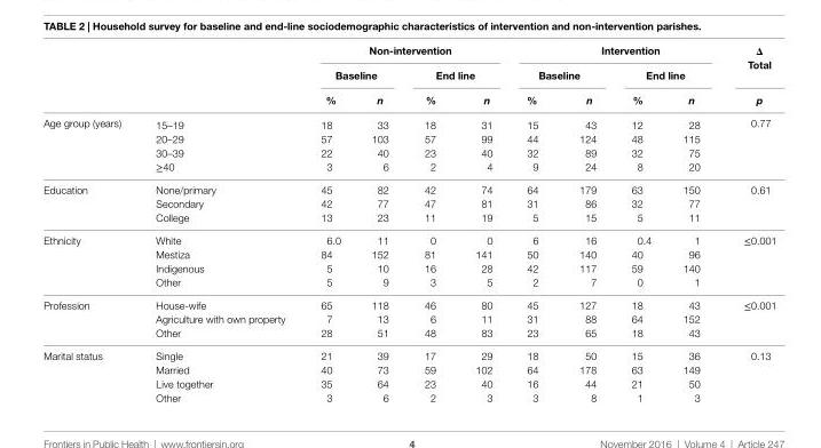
<table><thead><tr><td rowspan="3"></td><td rowspan="3"></td><td colspan="4">non-intervention</td><td colspan="4">intervention</td><td rowspan="3">Δ Total p</td></tr><tr><td colspan="2">Baseline</td><td colspan="2">end line</td><td colspan="2">Baseline</td><td colspan="2">end line</td></tr><tr><td>%</td><td>n</td><td>%</td><td>n</td><td>%</td><td>n</td><td>%</td><td>n</td></tr></thead><tbody><tr><td rowspan="4">Age group (years)</td><td>15–19</td><td>18</td><td>33</td><td>18</td><td>31</td><td>15</td><td>43</td><td>12</td><td>28</td><td rowspan="4">0.77</td></tr><tr><td>20–29</td><td>57</td><td>103</td><td>57</td><td>99</td><td>44</td><td>124</td><td>48</td><td>115</td></tr><tr><td>30–39</td><td>22</td><td>40</td><td>23</td><td>40</td><td>32</td><td>89</td><td>32</td><td>75</td></tr><tr><td>≥40</td><td>3</td><td>6</td><td>2</td><td>4</td><td>9</td><td>24</td><td>8</td><td>20</td></tr><tr><td rowspan="3">Education</td><td>None/primary</td><td>45</td><td>82</td><td>42</td><td>74</td><td>64</td><td>179</td><td>63</td><td>150</td><td rowspan="3">0.61</td></tr><tr><td>Secondary</td><td>42</td><td>77</td><td>47</td><td>81</td><td>31</td><td>86</td><td>32</td><td>77</td></tr><tr><td>College</td><td>13</td><td>23</td><td>11</td><td>19</td><td>5</td><td>15</td><td>5</td><td>11</td></tr><tr><td rowspan="4">Ethnicity</td><td>White</td><td>6.0</td><td>11</td><td>0</td><td>0</td><td>6</td><td>16</td><td>0.4</td><td>1</td><td rowspan="4">≤0.001</td></tr><tr><td>Mestiza</td><td>84</td><td>152</td><td>81</td><td>141</td><td>50</td><td>140</td><td>40</td><td>96</td></tr><tr><td>Indigenous</td><td>5</td><td>10</td><td>16</td><td>28</td><td>42</td><td>117</td><td>59</td><td>140</td></tr><tr><td>Other</td><td>5</td><td>9</td><td>3</td><td>5</td><td>2</td><td>7</td><td>0</td><td>1</td></tr><tr><td rowspan="3">Profession</td><td>House-wife</td><td>65</td><td>118</td><td>46</td><td>80</td><td>45</td><td>127</td><td>18</td><td>43</td><td rowspan="3">≤0.001</td></tr><tr><td>Agriculture with own property</td><td>7</td><td>13</td><td>6</td><td>11</td><td>31</td><td>88</td><td>64</td><td>152</td></tr><tr><td>Other</td><td>28</td><td>51</td><td>48</td><td>83</td><td>23</td><td>65</td><td>18</td><td>43</td></tr><tr><td rowspan="4">Marital status</td><td>Single</td><td>21</td><td>39</td><td>17</td><td>29</td><td>18</td><td>50</td><td>15</td><td>36</td><td rowspan="4">0.13</td></tr><tr><td>Married</td><td>40</td><td>73</td><td>59</td><td>102</td><td>64</td><td>178</td><td>63</td><td>149</td></tr><tr><td>Live together</td><td>35</td><td>64</td><td>23</td><td>40</td><td>16</td><td>44</td><td>21</td><td>50</td></tr><tr><td>Other</td><td>3</td><td>6</td><td>2</td><td>3</td><td>3</td><td>8</td><td>1</td><td>3</td></tr></tbody></table>